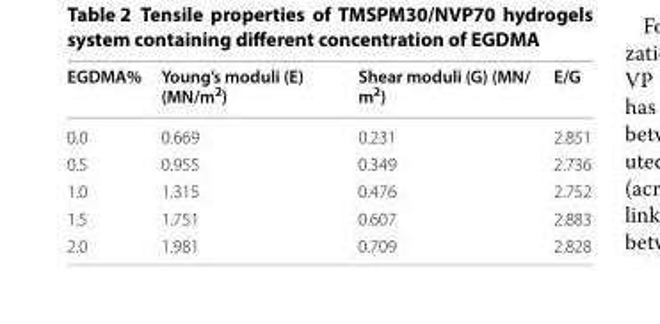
<table><thead><tr><td>EGDMA%</td><td>Young’s moduli (E) (MN/m<sup>2</sup>)</td><td>Shear moduli (G) (MN/ m<sup>2</sup>)</td><td>E/G</td></tr></thead><tbody><tr><td>0.0</td><td>0.669</td><td>0.231</td><td>2.851</td></tr><tr><td>0.5</td><td>0.955</td><td>0.349</td><td>2.736</td></tr><tr><td>1.0</td><td>1.315</td><td>0.476</td><td>2.752</td></tr><tr><td>1.5</td><td>1.751</td><td>0.607</td><td>2.883</td></tr><tr><td>2.0</td><td>1.981</td><td>0.709</td><td>2.828</td></tr></tbody></table>